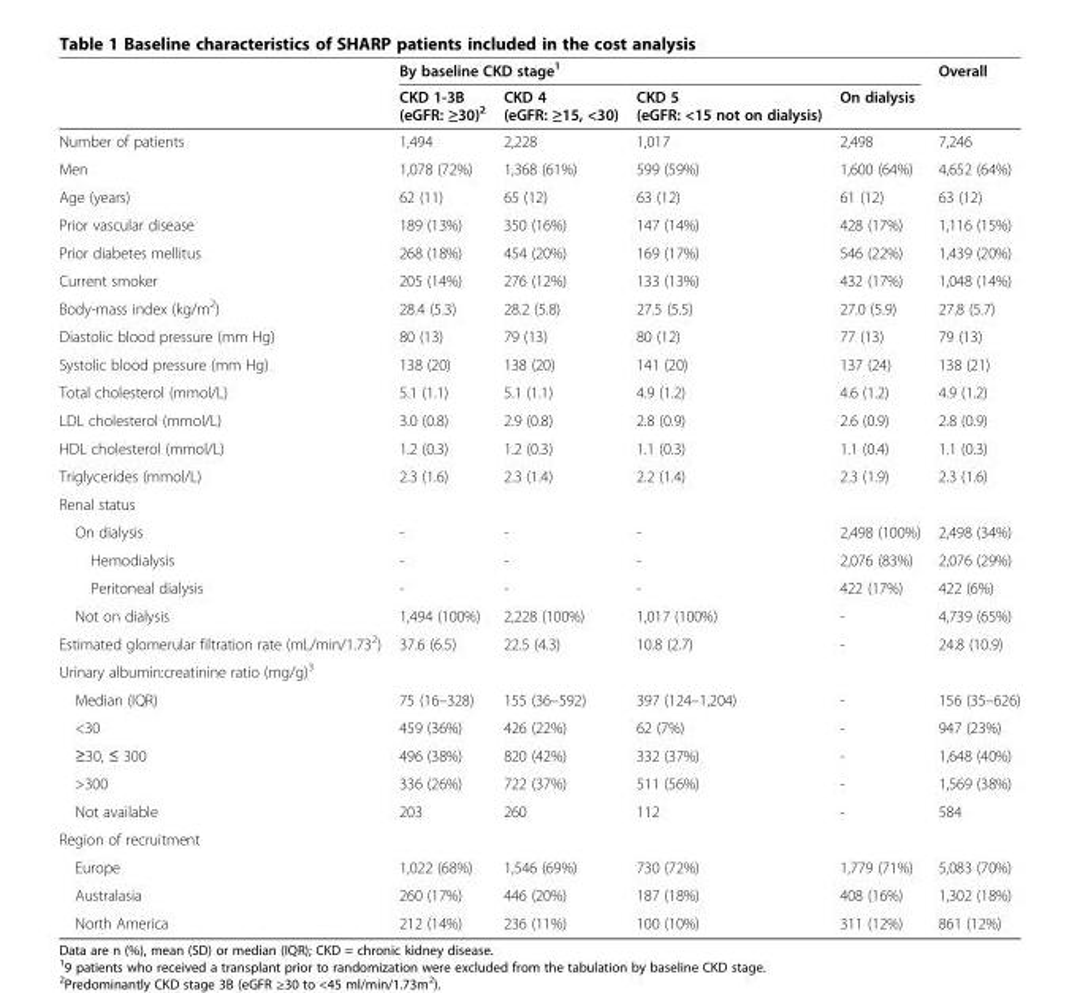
<table><thead><tr><td rowspan="2"></td><td colspan="4">By baseline CKD stage<sup>1</sup></td><td rowspan="2">Overall</td></tr><tr><td>CKD 1-3B (eGFR: ≥30)<sup>2</sup></td><td>CKD 4 (eGFR: ≥15, &lt;30)</td><td>CKD 5 (eGFR: &lt;15 not on dialysis)</td><td>On dialysis</td></tr></thead><tbody><tr><td>Number of patients</td><td>1,494</td><td>2,228</td><td>1,017</td><td>2,498</td><td>7,246</td></tr><tr><td>Men</td><td>1,078 (72%)</td><td>1,368 (61%)</td><td>599 (59%)</td><td>1,600 (64%)</td><td>4,652 (64%)</td></tr><tr><td>Age (years)</td><td>62 (11)</td><td>65 (12)</td><td>63 (12)</td><td>61 (12)</td><td>63 (12)</td></tr><tr><td>Prior vascular disease</td><td>189 (13%)</td><td>350 (16%)</td><td>147 (14%)</td><td>428 (17%)</td><td>1,116 (15%)</td></tr><tr><td>Prior diabetes mellitus</td><td>268 (18%)</td><td>454 (20%)</td><td>169 (17%)</td><td>546 (22%)</td><td>1,439 (20%)</td></tr><tr><td>Current smoker</td><td>205 (14%)</td><td>276 (12%)</td><td>133 (13%)</td><td>432 (17%)</td><td>1,048 (14%)</td></tr><tr><td>Body-mass index (kg/m<sup>2</sup>)</td><td>28.4 (5.3)</td><td>28.2 (5.8)</td><td>27.5 (5.5)</td><td>27.0 (5.9)</td><td>27.8 (5.7)</td></tr><tr><td>Diastolic blood pressure (mm Hg)</td><td>80 (13)</td><td>79 (13)</td><td>80 (12)</td><td>77 (13)</td><td>79 (13)</td></tr><tr><td>Systolic blood pressure (mm Hg)</td><td>138 (20)</td><td>138 (20)</td><td>141 (20)</td><td>137 (24)</td><td>138 (21)</td></tr><tr><td>Total cholesterol (mmol/L)</td><td>5.1 (1.1)</td><td>5.1 (1.1)</td><td>4.9 (1.2)</td><td>4.6 (1.2)</td><td>4.9 (1.2)</td></tr><tr><td>LDL cholesterol (mmol/L)</td><td>3.0 (0.8)</td><td>2.9 (0.8)</td><td>2.8 (0.9)</td><td>2.6 (0.9)</td><td>2.8 (0.9)</td></tr><tr><td>HDL cholesterol (mmol/L)</td><td>1.2 (0.3)</td><td>1.2 (0.3)</td><td>1.1 (0.3)</td><td>1.1 (0.4)</td><td>1.1 (0.3)</td></tr><tr><td>Triglycerides (mmol/L)</td><td>2.3 (1.6)</td><td>2.3 (1.4)</td><td>2.2 (1.4)</td><td>2.3 (1.9)</td><td>2.3 (1.6)</td></tr><tr><td colspan="6">Renal status</td></tr><tr><td>On dialysis</td><td>-</td><td>-</td><td>-</td><td>2,498 (100%)</td><td>2,498 (34%)</td></tr><tr><td>Hemodialysis</td><td>-</td><td>-</td><td>-</td><td>2,076 (83%)</td><td>2,076 (29%)</td></tr><tr><td>Peritoneal dialysis</td><td>-</td><td>-</td><td>-</td><td>422 (17%)</td><td>422 (6%)</td></tr><tr><td>Not on dialysis</td><td>1,494 (100%)</td><td>2,228 (100%)</td><td>1,017 (100%)</td><td>-</td><td>4,739 (65%)</td></tr><tr><td>Estimated glomerular filtration rate (mL/min/1.73<sup>2</sup>)</td><td>37.6 (6.5)</td><td>22.5 (4.3)</td><td>10.8 (2.7)</td><td>-</td><td>24.8 (10.9)</td></tr><tr><td colspan="6">Urinary albumin:creatinine ratio (mg/g)<sup>3</sup></td></tr><tr><td>Median (IQR)</td><td>75 (16–328)</td><td>155 (36–592)</td><td>397 (124–1,204)</td><td>-</td><td>156 (35–626)</td></tr><tr><td>&lt;30</td><td>459 (36%)</td><td>426 (22%)</td><td>62 (7%)</td><td>-</td><td>947 (23%)</td></tr><tr><td>≥30, ≤ 300</td><td>496 (38%)</td><td>820 (42%)</td><td>332 (37%)</td><td>-</td><td>1,648 (40%)</td></tr><tr><td>&gt;300</td><td>336 (26%)</td><td>722 (37%)</td><td>511 (56%)</td><td>-</td><td>1,569 (38%)</td></tr><tr><td>Not available</td><td>203</td><td>260</td><td>112</td><td>-</td><td>584</td></tr><tr><td colspan="6">Region of recruitment</td></tr><tr><td>Europe</td><td>1,022 (68%)</td><td>1,546 (69%)</td><td>730 (72%)</td><td>1,779 (71%)</td><td>5,083 (70%)</td></tr><tr><td>Australasia</td><td>260 (17%)</td><td>446 (20%)</td><td>187 (18%)</td><td>408 (16%)</td><td>1,302 (18%)</td></tr><tr><td>North America</td><td>212 (14%)</td><td>236 (11%)</td><td>100 (10%)</td><td>311 (12%)</td><td>861 (12%)</td></tr></tbody></table>